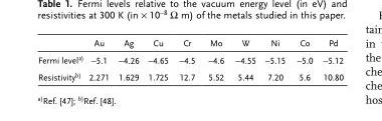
<table><thead><tr><td></td><td>Au</td><td>Ag</td><td>Cu</td><td>Cr</td><td>Mo</td><td>W</td><td>Ni</td><td>Co</td><td>Pd</td></tr></thead><tbody><tr><td>Fermi levela)</td><td>−5.1</td><td>−4.26</td><td>−4.65</td><td>−4.5</td><td>−4.6</td><td>−4.55</td><td>−5.15</td><td>−5.0</td><td>−5.12</td></tr><tr><td>Resistivityb)</td><td>2.271</td><td>1.629</td><td>1.725</td><td>12.7</td><td>5.52</td><td>5.44</td><td>7.20</td><td>5.6</td><td>10.80</td></tr></tbody></table>